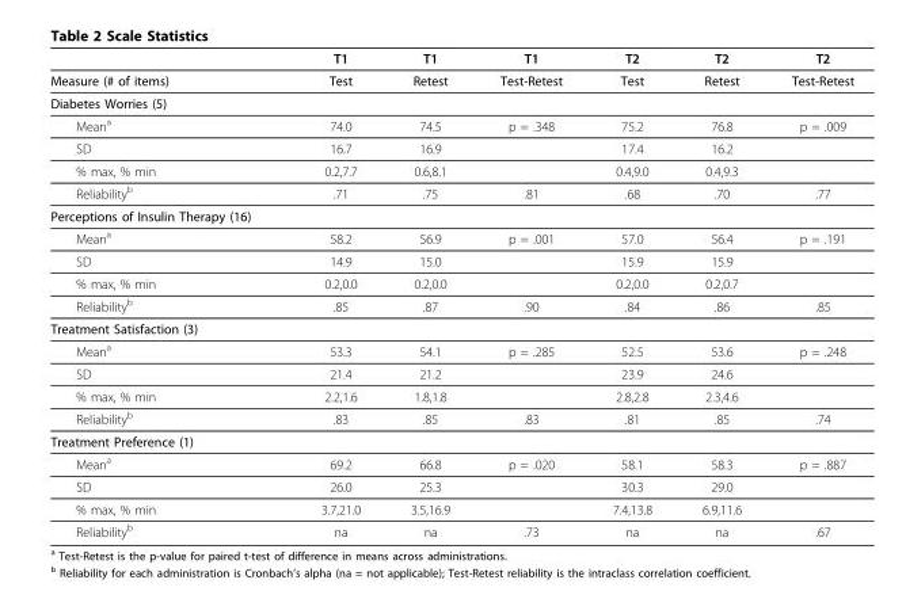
<table><thead><tr><td></td><td>T1</td><td>T1</td><td>T1</td><td>T2</td><td>T2</td><td>T2</td></tr></thead><tbody><tr><td>Measure (# of items)</td><td>Test</td><td>Retest</td><td>Test-Retest</td><td>Test</td><td>Retest</td><td>Test-Retest</td></tr><tr><td colspan="7">Diabetes Worries (5)</td></tr><tr><td>Mean<sup>a</sup></td><td>74.0</td><td>74.5</td><td>p = .348</td><td>75.2</td><td>76.8</td><td>p = .009</td></tr><tr><td>SD</td><td>16.7</td><td>16.9</td><td></td><td>17.4</td><td>16.2</td><td></td></tr><tr><td>% max, % min</td><td>0.2,7.7</td><td>0.6,8.1</td><td></td><td>0.4,9.0</td><td>0.4,9.3</td><td></td></tr><tr><td>Reliability<sup>b</sup></td><td>.71</td><td>.75</td><td>.81</td><td>.68</td><td>.70</td><td>.77</td></tr><tr><td colspan="7">Perceptions of Insulin Therapy (16)</td></tr><tr><td>Mean<sup>a</sup></td><td>58.2</td><td>56.9</td><td>p = .001</td><td>57.0</td><td>56.4</td><td>p = .191</td></tr><tr><td>SD</td><td>14.9</td><td>15.0</td><td></td><td>15.9</td><td>15.9</td><td></td></tr><tr><td>% max, % min</td><td>0.2,0.0</td><td>0.2,0.0</td><td></td><td>0.2,0.0</td><td>0.2,0.7</td><td></td></tr><tr><td>Reliability<sup>b</sup></td><td>.85</td><td>.87</td><td>.90</td><td>.84</td><td>.86</td><td>.85</td></tr><tr><td colspan="7">Treatment Satisfaction (3)</td></tr><tr><td>Mean<sup>a</sup></td><td>53.3</td><td>54.1</td><td>p = .285</td><td>52.5</td><td>53.6</td><td>p = .248</td></tr><tr><td>SD</td><td>21.4</td><td>21.2</td><td></td><td>23.9</td><td>24.6</td><td></td></tr><tr><td>% max, % min</td><td>2.2,1.6</td><td>1.8,1.8</td><td></td><td>2.8,2.8</td><td>2.3,4.6</td><td></td></tr><tr><td>Reliability<sup>b</sup></td><td>.83</td><td>.85</td><td>.83</td><td>.81</td><td>.85</td><td>.74</td></tr><tr><td colspan="7">Treatment Preference (1)</td></tr><tr><td>Mean<sup>a</sup></td><td>69.2</td><td>66.8</td><td>p = .020</td><td>58.1</td><td>58.3</td><td>p = .887</td></tr><tr><td>SD</td><td>26.0</td><td>25.3</td><td></td><td>30.3</td><td>29.0</td><td></td></tr><tr><td>% max, % min</td><td>3.7,21.0</td><td>3.5,16.9</td><td></td><td>7.4,13.8</td><td>6.9,11.6</td><td></td></tr><tr><td>Reliability<sup>b</sup></td><td>na</td><td>na</td><td>.73</td><td>na</td><td>na</td><td>.67</td></tr></tbody></table>